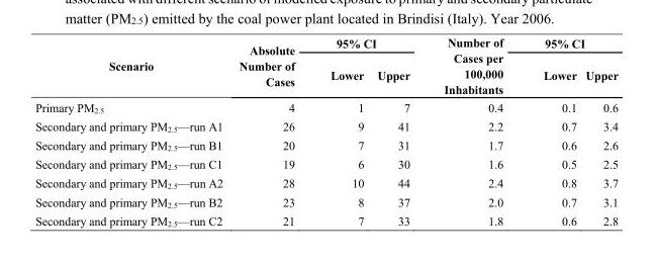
<table><thead><tr><td rowspan="2">Scenario</td><td rowspan="2">Absolute Number of Cases</td><td colspan="2">95% CI</td><td rowspan="2">Number of Cases per 100,000 Inhabitants</td><td colspan="2">95% CI</td></tr><tr><td>Lower</td><td>Upper</td><td>Lower</td><td>Upper</td></tr></thead><tbody><tr><td>Primary PM<sub>2.5</sub></td><td>4</td><td>1</td><td>7</td><td>0.4</td><td>0.1</td><td>0.6</td></tr><tr><td>Secondary and primary PM<sub>2.5</sub>—run A1</td><td>26</td><td>9</td><td>41</td><td>2.2</td><td>0.7</td><td>3.4</td></tr><tr><td>Secondary and primary PM<sub>2.5</sub>—run B1</td><td>20</td><td>7</td><td>31</td><td>1.7</td><td>0.6</td><td>2.6</td></tr><tr><td>Secondary and primary PM<sub>2.5</sub>—run C1</td><td>19</td><td>6</td><td>30</td><td>1.6</td><td>0.5</td><td>2.5</td></tr><tr><td>Secondary and primary PM<sub>2.5</sub>—run A2</td><td>28</td><td>10</td><td>44</td><td>2.4</td><td>0.8</td><td>3.7</td></tr><tr><td>Secondary and primary PM<sub>2.5</sub>—run B2</td><td>23</td><td>8</td><td>37</td><td>2.0</td><td>0.7</td><td>3.1</td></tr><tr><td>Secondary and primary PM<sub>2.5</sub>—run C2</td><td>21</td><td>7</td><td>33</td><td>1.8</td><td>0.6</td><td>2.8</td></tr></tbody></table>